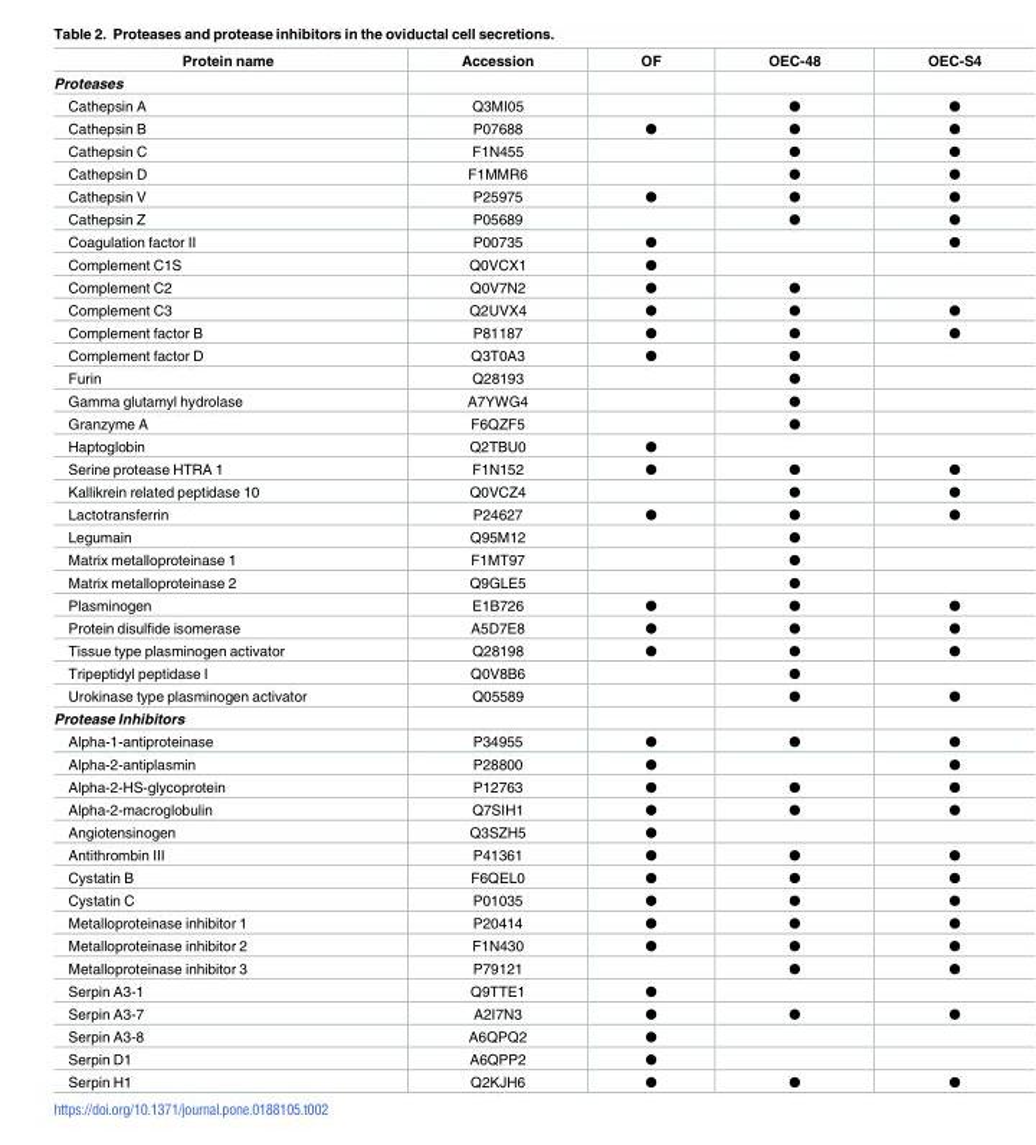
<table><thead><tr><td>Protein name</td><td>Accession</td><td>OF</td><td>OEC-48</td><td>OEC-S4</td></tr></thead><tbody><tr><td colspan="5">Proteases</td></tr><tr><td>Cathepsin A</td><td>Q3MI05</td><td></td><td>●</td><td>●</td></tr><tr><td>Cathepsin B</td><td>P07688</td><td>●</td><td>●</td><td>●</td></tr><tr><td>Cathepsin C</td><td>F1N455</td><td></td><td>●</td><td>●</td></tr><tr><td>Cathepsin D</td><td>F1MMR6</td><td></td><td>●</td><td>●</td></tr><tr><td>Cathepsin V</td><td>P25975</td><td>●</td><td>●</td><td>●</td></tr><tr><td>Cathepsin Z</td><td>P05689</td><td></td><td>●</td><td>●</td></tr><tr><td>Coagulation factor II</td><td>P00735</td><td>●</td><td></td><td>●</td></tr><tr><td>Complement C1S</td><td>Q0VCX1</td><td>●</td><td></td><td></td></tr><tr><td>Complement C2</td><td>Q0V7N2</td><td>●</td><td>●</td><td></td></tr><tr><td>Complement C3</td><td>Q2UVX4</td><td>●</td><td>●</td><td>●</td></tr><tr><td>Complement factor B</td><td>P81187</td><td>●</td><td>●</td><td>●</td></tr><tr><td>Complement factor D</td><td>Q3T0A3</td><td>●</td><td>●</td><td></td></tr><tr><td>Furin</td><td>Q28193</td><td></td><td>●</td><td></td></tr><tr><td>Gamma glutamyl hydrolase</td><td>A7YWG4</td><td></td><td>●</td><td></td></tr><tr><td>Granzyme A</td><td>F6QZF5</td><td></td><td>●</td><td></td></tr><tr><td>Haptoglobin</td><td>Q2TBU0</td><td>●</td><td></td><td></td></tr><tr><td>Serine protease HTRA 1</td><td>F1N152</td><td>●</td><td>●</td><td>●</td></tr><tr><td>Kallikrein related peptidase 10</td><td>Q0VCZ4</td><td></td><td>●</td><td>●</td></tr><tr><td>Lactotransferrin</td><td>P24627</td><td>●</td><td>●</td><td>●</td></tr><tr><td>Legumain</td><td>Q95M12</td><td></td><td>●</td><td></td></tr><tr><td>Matrix metalloproteinase 1</td><td>F1MT97</td><td></td><td>●</td><td></td></tr><tr><td>Matrix metalloproteinase 2</td><td>Q9GLE5</td><td></td><td>●</td><td></td></tr><tr><td>Plasminogen</td><td>E1B726</td><td>●</td><td>●</td><td>●</td></tr><tr><td>Protein disulfide isomerase</td><td>A5D7E8</td><td>●</td><td>●</td><td>●</td></tr><tr><td>Tissue type plasminogen activator</td><td>Q28198</td><td>●</td><td>●</td><td>●</td></tr><tr><td>Tripeptidyl peptidase I</td><td>Q0V8B6</td><td></td><td>●</td><td></td></tr><tr><td>Urokinase type plasminogen activator</td><td>Q05589</td><td></td><td>●</td><td>●</td></tr><tr><td colspan="5">Protease Inhibitors</td></tr><tr><td>Alpha-1-antiproteinase</td><td>P34955</td><td>●</td><td>●</td><td>●</td></tr><tr><td>Alpha-2-antiplasmin</td><td>P28800</td><td>●</td><td></td><td>●</td></tr><tr><td>Alpha-2-HS-glycoprotein</td><td>P12763</td><td>●</td><td>●</td><td>●</td></tr><tr><td>Alpha-2-macroglobulin</td><td>Q7SIH1</td><td>●</td><td>●</td><td>●</td></tr><tr><td>Angiotensinogen</td><td>Q3SZH5</td><td>●</td><td></td><td></td></tr><tr><td>Antithrombin III</td><td>P41361</td><td>●</td><td>●</td><td>●</td></tr><tr><td>Cystatin B</td><td>F6QEL0</td><td>●</td><td>●</td><td>●</td></tr><tr><td>Cystatin C</td><td>P01035</td><td>●</td><td>●</td><td>●</td></tr><tr><td>Metalloproteinase inhibitor 1</td><td>P20414</td><td>●</td><td>●</td><td>●</td></tr><tr><td>Metalloproteinase inhibitor 2</td><td>F1N430</td><td>●</td><td>●</td><td>●</td></tr><tr><td>Metalloproteinase inhibitor 3</td><td>P79121</td><td></td><td>●</td><td>●</td></tr><tr><td>Serpin A3-1</td><td>Q9TTE1</td><td>●</td><td></td><td></td></tr><tr><td>Serpin A3-7</td><td>A2I7N3</td><td>●</td><td>●</td><td>●</td></tr><tr><td>Serpin A3-8</td><td>A6QPQ2</td><td>●</td><td></td><td></td></tr><tr><td>Serpin D1</td><td>A6QPP2</td><td>●</td><td></td><td></td></tr><tr><td>Serpin H1</td><td>Q2KJH6</td><td>●</td><td>●</td><td>●</td></tr></tbody></table>